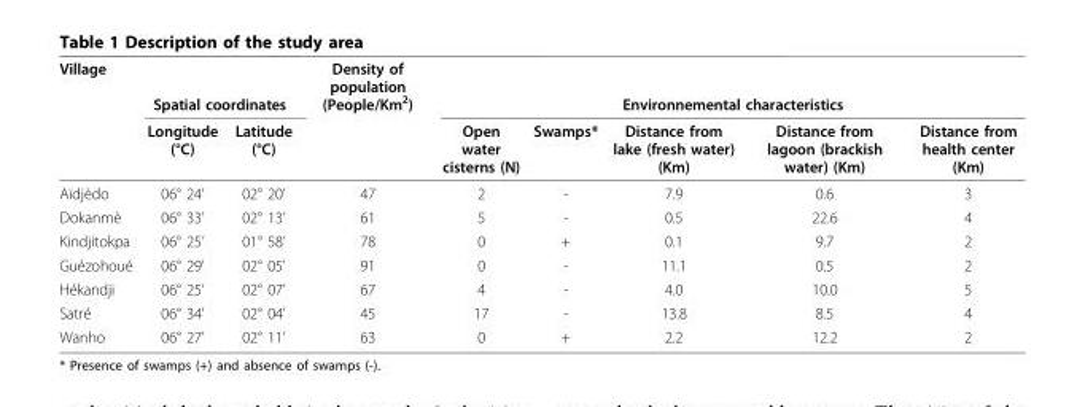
<table><thead><tr><td rowspan="2">Village</td><td colspan="2">Spatial coordinates</td><td rowspan="2">Density of population (People/Km<sup>2</sup>)</td><td colspan="5">Environnemental characteristics</td></tr><tr><td>Longitude (°C)</td><td>Latitude (°C)</td><td>Open water cisterns (N)</td><td>Swamps*</td><td>Distance from lake (fresh water) (Km)</td><td>Distance from lagoon (brackish water) (Km)</td><td>Distance from health center (Km)</td></tr></thead><tbody><tr><td>Aïdjèdo</td><td>06° 24’</td><td>02° 20’</td><td>47</td><td>2</td><td>-</td><td>7.9</td><td>0.6</td><td>3</td></tr><tr><td>Dokanmè</td><td>06° 33’</td><td>02° 13’</td><td>61</td><td>5</td><td>-</td><td>0.5</td><td>22.6</td><td>4</td></tr><tr><td>Kindjitokpa</td><td>06° 25’</td><td>01° 58’</td><td>78</td><td>0</td><td>+</td><td>0.1</td><td>9.7</td><td>2</td></tr><tr><td>Guézohoué</td><td>06° 29’</td><td>02° 05’</td><td>91</td><td>0</td><td>-</td><td>11.1</td><td>0.5</td><td>2</td></tr><tr><td>Hékandji</td><td>06° 25’</td><td>02° 07’</td><td>67</td><td>4</td><td>-</td><td>4.0</td><td>10.0</td><td>5</td></tr><tr><td>Satré</td><td>06° 34’</td><td>02° 04’</td><td>45</td><td>17</td><td>-</td><td>13.8</td><td>8.5</td><td>4</td></tr><tr><td>Wanho</td><td>06° 27’</td><td>02° 11’</td><td>63</td><td>0</td><td>+</td><td>2.2</td><td>12.2</td><td>2</td></tr></tbody></table>